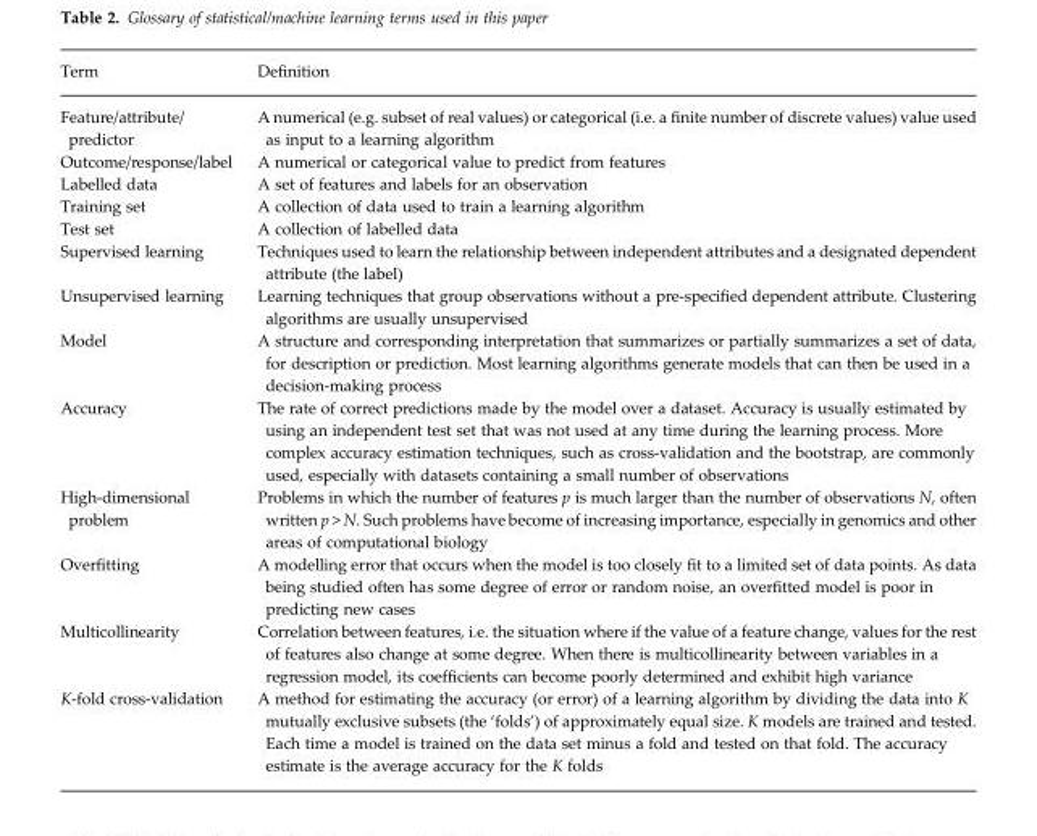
<table><thead><tr><td>Term</td><td>Definition</td></tr></thead><tbody><tr><td>Feature/attribute/ predictor</td><td>A numerical (e.g. subset of real values) or categorical (i.e. a finite number of discrete values) value used as input to a learning algorithm</td></tr><tr><td>Outcome/response/label</td><td>A numerical or categorical value to predict from features</td></tr><tr><td>Labelled data</td><td>A set of features and labels for an observation</td></tr><tr><td>Training set</td><td>A collection of data used to train a learning algorithm</td></tr><tr><td>Test set</td><td>A collection of labelled data</td></tr><tr><td>Supervised learning</td><td>Techniques used to learn the relationship between independent attributes and a designated dependent attribute (the label)</td></tr><tr><td>Unsupervised learning</td><td>Learning techniques that group observations without a pre-specified dependent attribute. Clustering algorithms are usually unsupervised</td></tr><tr><td>Model</td><td>A structure and corresponding interpretation that summarizes or partially summarizes a set of data, for description or prediction. Most learning algorithms generate models that can then be used in a decision-making process</td></tr><tr><td>Accuracy</td><td>The rate of correct predictions made by the model over a dataset. Accuracy is usually estimated by using an independent test set that was not used at any time during the learning process. More complex accuracy estimation techniques, such as cross-validation and the bootstrap, are commonly used, especially with datasets containing a small number of observations</td></tr><tr><td>High-dimensional problem</td><td>Problems in which the number of features p is much larger than the number of observations N, often written p &gt; N. Such problems have become of increasing importance, especially in genomics and other areas of computational biology</td></tr><tr><td>Overfitting</td><td>A modelling error that occurs when the model is too closely fit to a limited set of data points. As data being studied often has some degree of error or random noise, an overfitted model is poor in predicting new cases</td></tr><tr><td>Multicollinearity</td><td>Correlation between features, i.e. the situation where if the value of a feature change, values for the rest of features also change at some degree. When there is multicollinearity between variables in a regression model, its coefficients can become poorly determined and exhibit high variance</td></tr><tr><td>K-fold cross-validation</td><td>A method for estimating the accuracy (or error) of a learning algorithm by dividing the data into K mutually exclusive subsets (the ‘folds’) of approximately equal size. K models are trained and tested. Each time a model is trained on the data set minus a fold and tested on that fold. The accuracy estimate is the average accuracy for the K folds</td></tr></tbody></table>